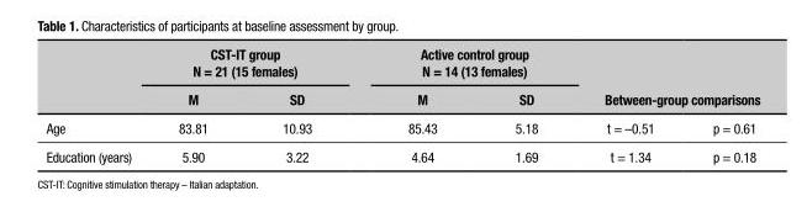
<table><thead><tr><td rowspan="3">Age</td><td colspan="2">CST-IT group N = 21 (15 females)</td><td colspan="2">Active control group N = 14 (13 females)</td><td rowspan="2" colspan="2">Between-group comparisons</td></tr><tr><td rowspan="2">M 83.81</td><td rowspan="2">SD 10.93</td><td rowspan="2">M 85.43</td><td rowspan="2">SD 5.18</td></tr><tr><td>t = –0.51</td><td>p = 0.61</td></tr></thead><tbody><tr><td>Education (years)</td><td>5.90</td><td>3.22</td><td>4.64</td><td>1.69</td><td>t = 1.34</td><td>p = 0.18</td></tr></tbody></table>